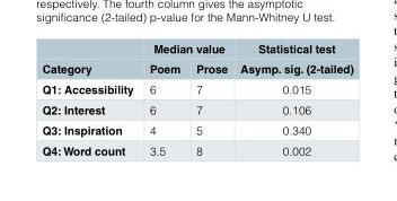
<table><thead><tr><td rowspan="2">Category</td><td colspan="2">Median value</td><td rowspan="2">Statistical test Asymp. sig. (2-tailed)</td></tr><tr><td>Poem</td><td>Prose</td></tr></thead><tbody><tr><td>Q1: Accessibility</td><td>6</td><td>7</td><td>0.015</td></tr><tr><td>Q2: Interest</td><td>6</td><td>7</td><td>0.106</td></tr><tr><td>Q3: Inspiration</td><td>4</td><td>5</td><td>0.340</td></tr><tr><td>Q4: Word count</td><td>3.5</td><td>8</td><td>0.002</td></tr></tbody></table>